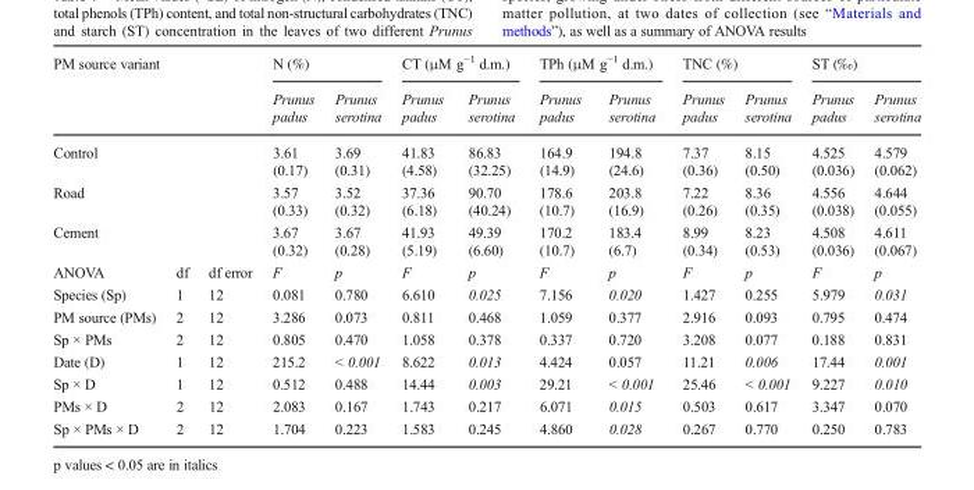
<table><thead><tr><td rowspan="2" colspan="3">PM source variant</td><td colspan="2">N (%)</td><td colspan="2">CT (μM g<sup>−1</sup> d.m.)</td><td colspan="2">TPh (μM g<sup>−1</sup> d.m.)</td><td colspan="2">TNC (%)</td><td colspan="2">ST (‰)</td></tr><tr><td>Prunus padus</td><td>Prunus serotina</td><td>Prunus padus</td><td>Prunus serotina</td><td>Prunus padus</td><td>Prunus serotina</td><td>Prunus padus</td><td>Prunus serotina</td><td>Prunus padus</td><td>Prunus serotina</td></tr></thead><tbody><tr><td colspan="3">Control</td><td>3.61 (0.17)</td><td>3.69 (0.31)</td><td>41.83 (4.58)</td><td>86.83 (32.25)</td><td>164.9 (14.9)</td><td>194.8 (24.6)</td><td>7.37 (0.36)</td><td>8.15 (0.50)</td><td>4.525 (0.036)</td><td>4.579 (0.062)</td></tr><tr><td colspan="3">Road</td><td>3.57 (0.33)</td><td>3.52 (0.32)</td><td>37.36 (6.18)</td><td>90.70 (40.24)</td><td>178.6 (10.7)</td><td>203.8 (16.9)</td><td>7.22 (0.26)</td><td>8.36 (0.35)</td><td>4.556 (0.038)</td><td>4.644 (0.055)</td></tr><tr><td colspan="3">Cement</td><td>3.67 (0.32)</td><td>3.67 (0.28)</td><td>41.93 (5.19)</td><td>49.39 (6.60)</td><td>170.2 (10.7)</td><td>183.4 (6.7)</td><td>8.99 (0.34)</td><td>8.23 (0.53)</td><td>4.508 (0.036)</td><td>4.611 (0.067)</td></tr><tr><td>ANOVA</td><td>df</td><td>df error</td><td>F</td><td>p</td><td>F</td><td>p</td><td>F</td><td>p</td><td>F</td><td>p</td><td>F</td><td>p</td></tr><tr><td>Species (Sp)</td><td>1</td><td>12</td><td>0.081</td><td>0.780</td><td>6.610</td><td>0.025</td><td>7.156</td><td>0.020</td><td>1.427</td><td>0.255</td><td>5.979</td><td>0.031</td></tr><tr><td>PM source (PMs)</td><td>2</td><td>12</td><td>3.286</td><td>0.073</td><td>0.811</td><td>0.468</td><td>1.059</td><td>0.377</td><td>2.916</td><td>0.093</td><td>0.795</td><td>0.474</td></tr><tr><td>Sp × PMs</td><td>2</td><td>12</td><td>0.805</td><td>0.470</td><td>1.058</td><td>0.378</td><td>0.337</td><td>0.720</td><td>3.208</td><td>0.077</td><td>0.188</td><td>0.831</td></tr><tr><td>Date (D)</td><td>1</td><td>12</td><td>215.2</td><td>&lt; 0.001</td><td>8.622</td><td>0.013</td><td>4.424</td><td>0.057</td><td>11.21</td><td>0.006</td><td>17.44</td><td>0.001</td></tr><tr><td>Sp × D</td><td>1</td><td>12</td><td>0.512</td><td>0.488</td><td>14.44</td><td>0.003</td><td>29.21</td><td>&lt; 0.001</td><td>25.46</td><td>&lt; 0.001</td><td>9.227</td><td>0.010</td></tr><tr><td>PMs × D</td><td>2</td><td>12</td><td>2.083</td><td>0.167</td><td>1.743</td><td>0.217</td><td>6.071</td><td>0.015</td><td>0.503</td><td>0.617</td><td>3.347</td><td>0.070</td></tr><tr><td>Sp × PMs × D</td><td>2</td><td>12</td><td>1.704</td><td>0.223</td><td>1.583</td><td>0.245</td><td>4.860</td><td>0.028</td><td>0.267</td><td>0.770</td><td>0.250</td><td>0.783</td></tr></tbody></table>